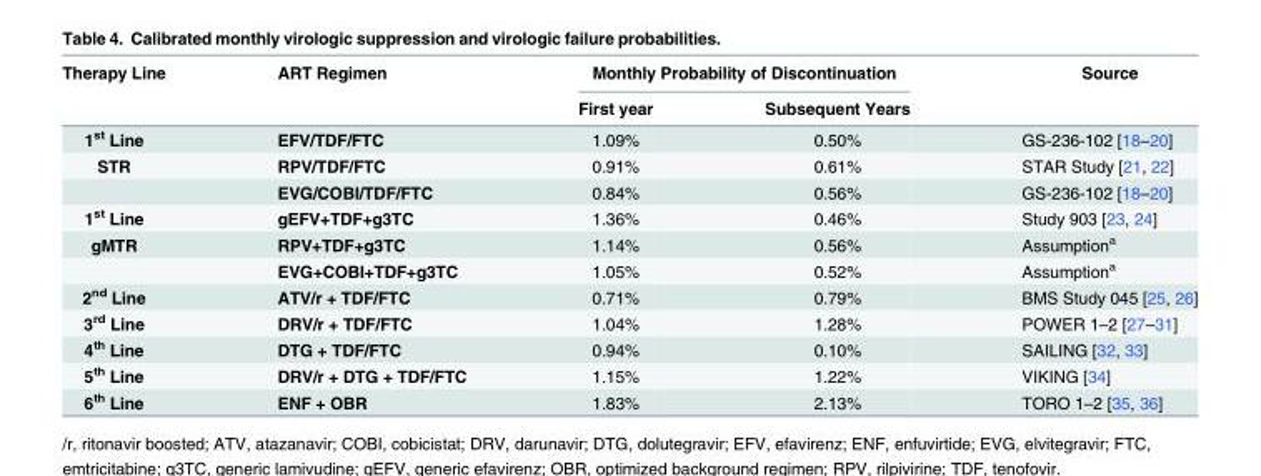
<table><thead><tr><td rowspan="2">Therapy Line</td><td rowspan="2">ART Regimen</td><td colspan="2">Monthly Probability of Discontinuation</td><td rowspan="2">Source</td></tr><tr><td>First year</td><td>Subsequent Years</td></tr></thead><tbody><tr><td>1<sup>st</sup> Line</td><td>EFV/TDF/FTC</td><td>1.09%</td><td>0.50%</td><td>GS-236-102 [18–20]</td></tr><tr><td rowspan="2">STR</td><td>RPV/TDF/FTC</td><td>0.91%</td><td>0.61%</td><td>STAR Study [21, 22]</td></tr><tr><td>EVG/COBI/TDF/FTC</td><td>0.84%</td><td>0.56%</td><td>GS-236-102 [18–20]</td></tr><tr><td>1<sup>st</sup> Line</td><td>gEFV+TDF+g3TC</td><td>1.36%</td><td>0.46%</td><td>Study 903 [23, 24]</td></tr><tr><td rowspan="2">gMTR</td><td>RPV+TDF+g3TC</td><td>1.14%</td><td>0.56%</td><td>Assumption<sup>a</sup></td></tr><tr><td>EVG+COBI+TDF+g3TC</td><td>1.05%</td><td>0.52%</td><td>Assumption<sup>a</sup></td></tr><tr><td>2<sup>nd</sup> Line</td><td>ATV/r + TDF/FTC</td><td>0.71%</td><td>0.79%</td><td>BMS Study 045 [25, 26]</td></tr><tr><td>3<sup>rd</sup> Line</td><td>DRV/r + TDF/FTC</td><td>1.04%</td><td>1.28%</td><td>POWER 1–2 [27–31]</td></tr><tr><td>4<sup>th</sup> Line</td><td>DTG + TDF/FTC</td><td>0.94%</td><td>0.10%</td><td>SAILING [32, 33]</td></tr><tr><td>5<sup>th</sup> Line</td><td>DRV/r + DTG + TDF/FTC</td><td>1.15%</td><td>1.22%</td><td>VIKING [34]</td></tr><tr><td>6<sup>th</sup> Line</td><td>ENF + OBR</td><td>1.83%</td><td>2.13%</td><td>TORO 1–2 [35, 36]</td></tr></tbody></table>